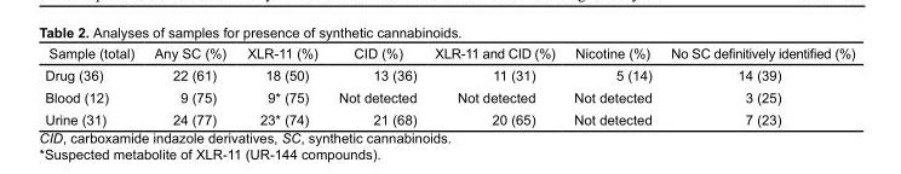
<table><thead><tr><td>Sample (total)</td><td>Any SC (%)</td><td>XLR-11 (%)</td><td>CID (%)</td><td>XLR-11 and CID (%)</td><td>Nicotine (%)</td><td>No SC definitively identified (%)</td></tr></thead><tbody><tr><td>Drug (36)</td><td>22 (61)</td><td>18 (50)</td><td>13 (36)</td><td>11 (31)</td><td>5 (14)</td><td>14 (39)</td></tr><tr><td>Blood (12)</td><td>9 (75)</td><td>9* (75)</td><td>Not detected</td><td>Not detected</td><td>Not detected</td><td>3 (25)</td></tr><tr><td>Urine (31)</td><td>24 (77)</td><td>23* (74)</td><td>21 (68)</td><td>20 (65)</td><td>Not detected</td><td>7 (23)</td></tr></tbody></table>